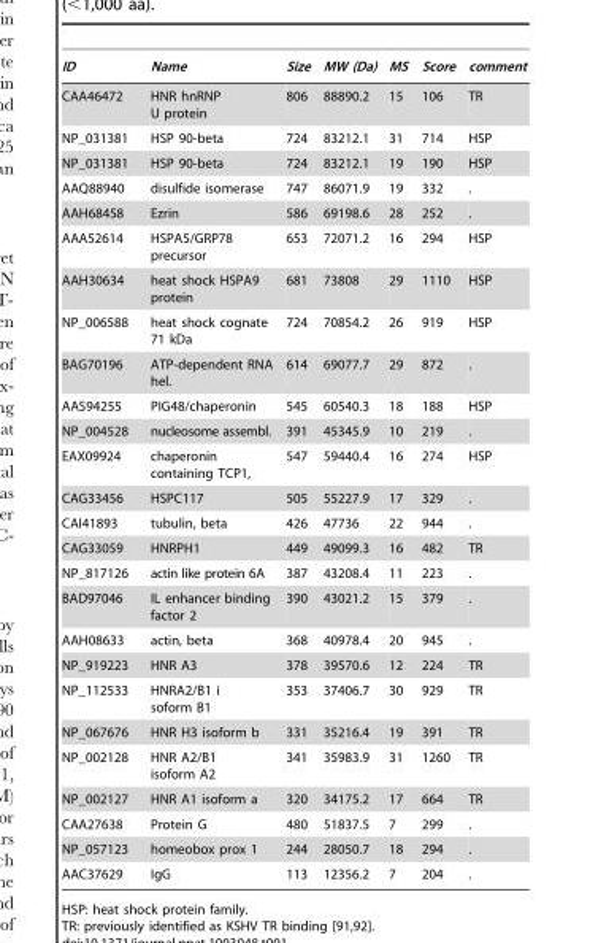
<table><thead><tr><td>ID</td><td>Name</td><td>Size</td><td>MW (Da)</td><td>MS</td><td>Score</td><td>comment</td></tr></thead><tbody><tr><td>CAA46472</td><td>HNR hnRNP U protein</td><td>806</td><td>88890.2</td><td>15</td><td>106</td><td>TR</td></tr><tr><td>NP_031381</td><td>HSP 90-beta</td><td>724</td><td>83212.1</td><td>31</td><td>714</td><td>HSP</td></tr><tr><td>NP_031381</td><td>HSP 90-beta</td><td>724</td><td>83212.1</td><td>19</td><td>190</td><td>HSP</td></tr><tr><td>AAQ88940</td><td>disulfide isomerase</td><td>747</td><td>86071.9</td><td>19</td><td>332</td><td>.</td></tr><tr><td>AAH68458</td><td>Ezrin</td><td>586</td><td>69198.6</td><td>28</td><td>252</td><td>.</td></tr><tr><td>AAA52614</td><td>HSPA5/GRP78 precursor</td><td>653</td><td>72071.2</td><td>16</td><td>294</td><td>HSP</td></tr><tr><td>AAH30634</td><td>heat shock HSPA9 protein</td><td>681</td><td>73808</td><td>29</td><td>1110</td><td>HSP</td></tr><tr><td>NP_006588</td><td>heat shock cognate 71 kDa</td><td>724</td><td>70854.2</td><td>26</td><td>919</td><td>HSP</td></tr><tr><td>BAG70196</td><td>ATP-dependent RNA hel.</td><td>614</td><td>69077.7</td><td>29</td><td>872</td><td>.</td></tr><tr><td>AAS94255</td><td>PIG48/chaperonin</td><td>545</td><td>60540.3</td><td>18</td><td>188</td><td>HSP</td></tr><tr><td>NP_004528</td><td>nucleosome assembl.</td><td>391</td><td>45345.9</td><td>10</td><td>219</td><td>.</td></tr><tr><td>EAX09924</td><td>chaperonin containing TCP1,</td><td>547</td><td>59440.4</td><td>16</td><td>274</td><td>HSP</td></tr><tr><td>CAG33456</td><td>HSPC117</td><td>505</td><td>55227.9</td><td>17</td><td>329</td><td>.</td></tr><tr><td>CAI41893</td><td>tubulin, beta</td><td>426</td><td>47736</td><td>22</td><td>944</td><td>.</td></tr><tr><td>CAG33059</td><td>HNRPH1</td><td>449</td><td>49099.3</td><td>16</td><td>482</td><td>TR</td></tr><tr><td>NP_817126</td><td>actin like protein 6A</td><td>387</td><td>43208.4</td><td>11</td><td>223</td><td>.</td></tr><tr><td>BAD97046</td><td>IL enhancer binding factor 2</td><td>390</td><td>43021.2</td><td>15</td><td>379</td><td>.</td></tr><tr><td>AAH08633</td><td>actin, beta</td><td>368</td><td>40978.4</td><td>20</td><td>945</td><td>.</td></tr><tr><td>NP_919223</td><td>HNR A3</td><td>378</td><td>39570.6</td><td>12</td><td>224</td><td>TR</td></tr><tr><td>NP_112533</td><td>HNRA2/B1 i soform B1</td><td>353</td><td>37406.7</td><td>30</td><td>929</td><td>TR</td></tr><tr><td>NP_067676</td><td>HNR H3 isoform b</td><td>331</td><td>35216.4</td><td>19</td><td>391</td><td>TR</td></tr><tr><td>NP_002128</td><td>HNR A2/B1 isoform A2</td><td>341</td><td>35983.9</td><td>31</td><td>1260</td><td>TR</td></tr><tr><td>NP_002127</td><td>HNR A1 isoform a</td><td>320</td><td>34175.2</td><td>17</td><td>664</td><td>TR</td></tr><tr><td>CAA27638</td><td>Protein G</td><td>480</td><td>51837.5</td><td>7</td><td>299</td><td>.</td></tr><tr><td>NP_057123</td><td>homeobox prox 1</td><td>244</td><td>28050.7</td><td>18</td><td>294</td><td>.</td></tr><tr><td>AAC37629</td><td>IgG</td><td>113</td><td>12356.2</td><td>7</td><td>204</td><td>.</td></tr></tbody></table>